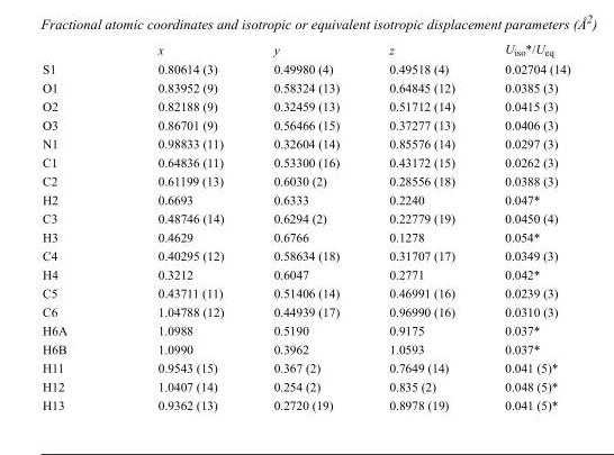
<table><thead><tr><td></td><td>x</td><td>y</td><td>z</td><td>U<sub>iso</sub>*/U<sub>eq</sub></td></tr></thead><tbody><tr><td>S1</td><td>0.80614 (3)</td><td>0.49980 (4)</td><td>0.49518 (4)</td><td>0.02704 (14)</td></tr><tr><td>O1</td><td>0.83952 (9)</td><td>0.58324 (13)</td><td>0.64845 (12)</td><td>0.0385 (3)</td></tr><tr><td>O2</td><td>0.82188 (9)</td><td>0.32459 (13)</td><td>0.51712 (14)</td><td>0.0415 (3)</td></tr><tr><td>O3</td><td>0.86701 (9)</td><td>0.56466 (15)</td><td>0.37277 (13)</td><td>0.0406 (3)</td></tr><tr><td>N1</td><td>0.98833 (11)</td><td>0.32604 (14)</td><td>0.85576 (14)</td><td>0.0297 (3)</td></tr><tr><td>C1</td><td>0.64836 (11)</td><td>0.53300 (16)</td><td>0.43172 (15)</td><td>0.0262 (3)</td></tr><tr><td>C2</td><td>0.61199 (13)</td><td>0.6030 (2)</td><td>0.28556 (18)</td><td>0.0388 (3)</td></tr><tr><td>H2</td><td>0.6693</td><td>0.6333</td><td>0.2240</td><td>0.047*</td></tr><tr><td>C3</td><td>0.48746 (14)</td><td>0.6294 (2)</td><td>0.22779 (19)</td><td>0.0450 (4)</td></tr><tr><td>H3</td><td>0.4629</td><td>0.6766</td><td>0.1278</td><td>0.054*</td></tr><tr><td>C4</td><td>0.40295 (12)</td><td>0.58634 (18)</td><td>0.31707 (17)</td><td>0.0349 (3)</td></tr><tr><td>H4</td><td>0.3212</td><td>0.6047</td><td>0.2771</td><td>0.042*</td></tr><tr><td>C5</td><td>0.43711 (11)</td><td>0.51406 (14)</td><td>0.46991 (16)</td><td>0.0239 (3)</td></tr><tr><td>C6</td><td>1.04788 (12)</td><td>0.44939 (17)</td><td>0.96990 (16)</td><td>0.0310 (3)</td></tr><tr><td>H6A</td><td>1.0988</td><td>0.5190</td><td>0.9175</td><td>0.037*</td></tr><tr><td>H6B</td><td>1.0990</td><td>0.3962</td><td>1.0593</td><td>0.037*</td></tr><tr><td>H11</td><td>0.9543 (15)</td><td>0.367 (2)</td><td>0.7649 (14)</td><td>0.041 (5)*</td></tr><tr><td>H12</td><td>1.0407 (14)</td><td>0.254 (2)</td><td>0.835 (2)</td><td>0.048 (5)*</td></tr><tr><td>H13</td><td>0.9362 (13)</td><td>0.2720 (19)</td><td>0.8978 (19)</td><td>0.041 (5)*</td></tr></tbody></table>